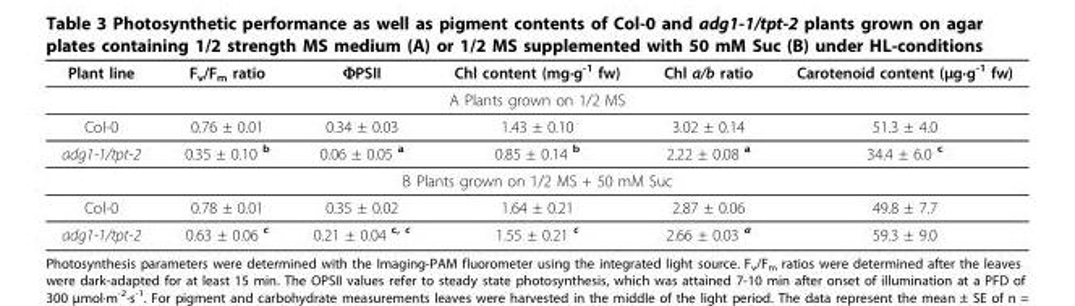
<table><thead><tr><td>Plant line</td><td>F<sub>v</sub>/F<sub>m</sub> ratio</td><td>ΦPSII</td><td>Chl content (mg·g<sup>-1</sup> fw)</td><td>Chl a/b ratio</td><td>Carotenoid content (μg·g<sup>-1</sup> fw)</td></tr></thead><tbody><tr><td colspan="6">A Plants grown on 1/2 MS</td></tr><tr><td>Col-0</td><td>0.76 ± 0.01</td><td>0.34 ± 0.03</td><td>1.43 ± 0.10</td><td>3.02 ± 0.14</td><td>51.3 ± 4.0</td></tr><tr><td>adg1-1/tpt-2</td><td>0.35 ± 0.10 <sup>b</sup></td><td>0.06 ± 0.05 <sup>a</sup></td><td>0.85 ± 0.14 <sup>b</sup></td><td>2.22 ± 0.08 <sup>a</sup></td><td>34.4 ± 6.0 <sup>c</sup></td></tr><tr><td colspan="6">B Plants grown on 1/2 MS + 50 mM Suc</td></tr><tr><td>Col-0</td><td>0.78 ± 0.01</td><td>0.35 ± 0.02</td><td>1.64 ± 0.21</td><td>2.87 ± 0.06</td><td>49.8 ± 7.7</td></tr><tr><td>adg1-1/tpt-2</td><td>0.63 ± 0.06 <sup>c</sup></td><td>0.21 ± 0.04 <sup>c, c</sup></td><td>1.55 ± 0.21 <sup>c</sup></td><td>2.66 ± 0.03 <sup>a</sup></td><td>59.3 ± 9.0</td></tr></tbody></table>